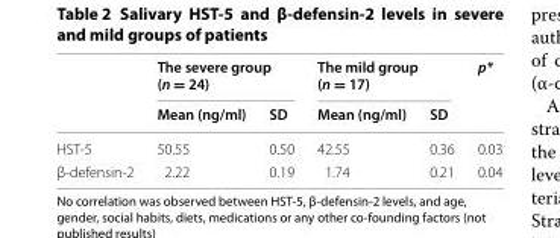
<table><thead><tr><td rowspan="2"></td><td colspan="2">The severe group (n = 24)</td><td colspan="2">The mild group (n = 17)</td><td rowspan="2">p*</td></tr><tr><td>Mean (ng/ml)</td><td>SD</td><td>Mean (ng/ml)</td><td>SD</td></tr></thead><tbody><tr><td>HST-5</td><td>50.55</td><td>0.50</td><td>42.55</td><td>0.36</td><td>0.03</td></tr><tr><td>β-defensin-2</td><td>2.22</td><td>0.19</td><td>1.74</td><td>0.21</td><td>0.04</td></tr></tbody></table>